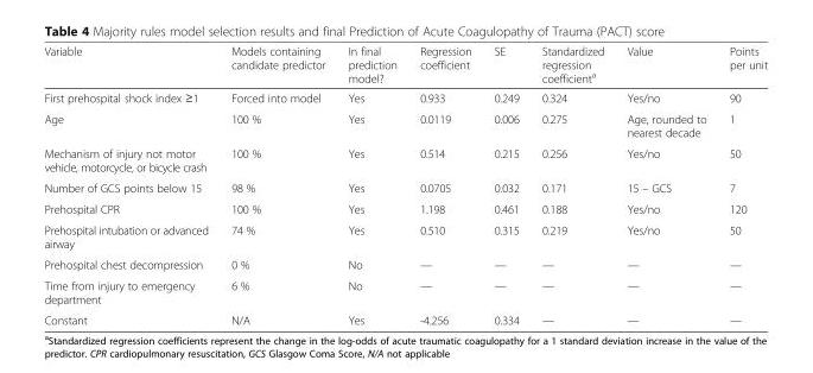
<table><thead><tr><td>Variable</td><td>Models containing candidate predictor</td><td>In final prediction model?</td><td>Regression coefficient</td><td>SE</td><td>Standardized regression coefficient<sup>a</sup></td><td>Value</td><td>Points per unit</td></tr></thead><tbody><tr><td>First prehospital shock index ≥1</td><td>Forced into model</td><td>Yes</td><td>0.933</td><td>0.249</td><td>0.324</td><td>Yes/no</td><td>90</td></tr><tr><td>Age</td><td>100 %</td><td>Yes</td><td>0.0119</td><td>0.006</td><td>0.275</td><td>Age, rounded to nearest decade</td><td>1</td></tr><tr><td>Mechanism of injury not motor vehicle, motorcycle, or bicycle crash</td><td>100 %</td><td>Yes</td><td>0.514</td><td>0.215</td><td>0.256</td><td>Yes/no</td><td>50</td></tr><tr><td>Number of GCS points below 15</td><td>98 %</td><td>Yes</td><td>0.0705</td><td>0.032</td><td>0.171</td><td>15 – GCS</td><td>7</td></tr><tr><td>Prehospital CPR</td><td>100 %</td><td>Yes</td><td>1.198</td><td>0.461</td><td>0.188</td><td>Yes/no</td><td>120</td></tr><tr><td>Prehospital intubation or advanced airway</td><td>74 %</td><td>Yes</td><td>0.510</td><td>0.315</td><td>0.219</td><td>Yes/no</td><td>50</td></tr><tr><td>Prehospital chest decompression</td><td>0 %</td><td>No</td><td>—</td><td>—</td><td>—</td><td>—</td><td>—</td></tr><tr><td>Time from injury to emergency department</td><td>6 %</td><td>No</td><td>—</td><td>—</td><td>—</td><td>—</td><td>—</td></tr><tr><td>Constant</td><td>N/A</td><td>Yes</td><td>-4.256</td><td>0.334</td><td>—</td><td>—</td><td>—</td></tr></tbody></table>